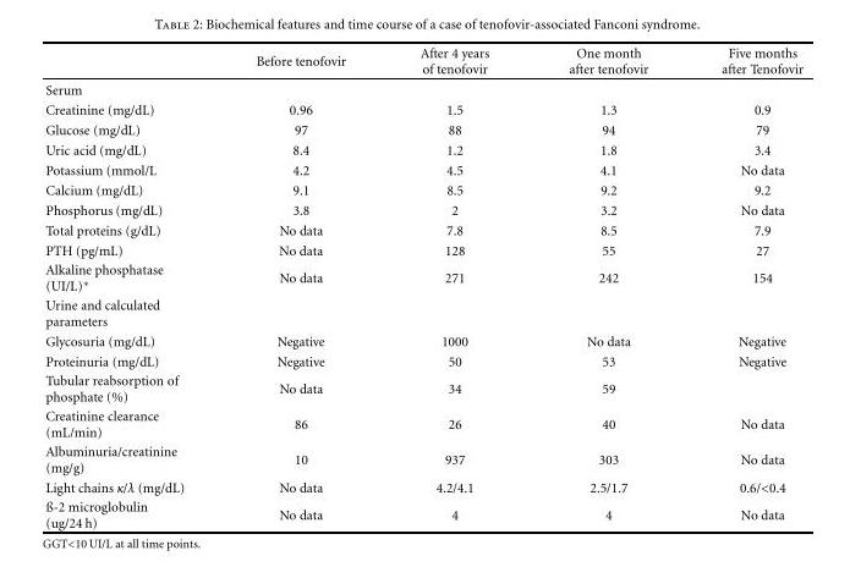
<table><thead><tr><td></td><td>Before tenofovir</td><td>After 4 years of tenofovir</td><td>One month after tenofovir</td><td>Five months after Tenofovir</td></tr></thead><tbody><tr><td colspan="5">Serum</td></tr><tr><td>Creatinine (mg/dL)</td><td>0.96</td><td>1.5</td><td>1.3</td><td>0.9</td></tr><tr><td>Glucose (mg/dL)</td><td>97</td><td>88</td><td>94</td><td>79</td></tr><tr><td>Uric acid (mg/dL)</td><td>8.4</td><td>1.2</td><td>1.8</td><td>3.4</td></tr><tr><td>Potassium (mmol/L</td><td>4.2</td><td>4.5</td><td>4.1</td><td>No data</td></tr><tr><td>Calcium (mg/dL)</td><td>9.1</td><td>8.5</td><td>9.2</td><td>9.2</td></tr><tr><td>Phosphorus (mg/dL)</td><td>3.8</td><td>2</td><td>3.2</td><td>No data</td></tr><tr><td>Total proteins (g/dL)</td><td>No data</td><td>7.8</td><td>8.5</td><td>7.9</td></tr><tr><td>PTH (pg/mL)</td><td>No data</td><td>128</td><td>55</td><td>27</td></tr><tr><td>Alkaline phosphatase (UI/L)∗</td><td>No data</td><td>271</td><td>242</td><td>154</td></tr><tr><td colspan="5">Urine and calculated parameters</td></tr><tr><td>Glycosuria (mg/dL)</td><td>Negative</td><td>1000</td><td>No data</td><td>Negative</td></tr><tr><td>Proteinuria (mg/dL)</td><td>Negative</td><td>50</td><td>53</td><td>Negative</td></tr><tr><td>Tubular reabsorption of phosphate (%)</td><td>No data</td><td>34</td><td>59</td><td></td></tr><tr><td>Creatinine clearance (mL/min)</td><td>86</td><td>26</td><td>40</td><td>No data</td></tr><tr><td>Albuminuria/creatinine (mg/g)</td><td>10</td><td>937</td><td>303</td><td>No data</td></tr><tr><td>Light chains κ/λ (mg/dL)</td><td>No data</td><td>4.2/4.1</td><td>2.5/1.7</td><td>0.6/&lt;0.4</td></tr><tr><td>ß-2 microglobulin (ug/24 h)</td><td>No data</td><td>4</td><td>4</td><td>No data</td></tr></tbody></table>